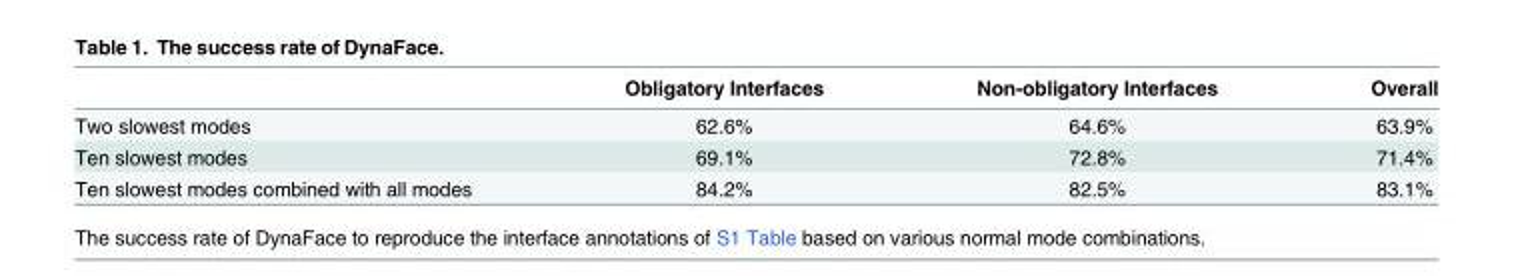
<table><thead><tr><td></td><td>Obligatory Interfaces</td><td>Non-obligatory Interfaces</td><td>Overall</td></tr></thead><tbody><tr><td>Two slowest modes</td><td>62.6%</td><td>64.6%</td><td>63.9%</td></tr><tr><td>Ten slowest modes</td><td>69.1%</td><td>72.8%</td><td>71.4%</td></tr><tr><td>Ten slowest modes combined with all modes</td><td>84.2%</td><td>82.5%</td><td>83.1%</td></tr></tbody></table>